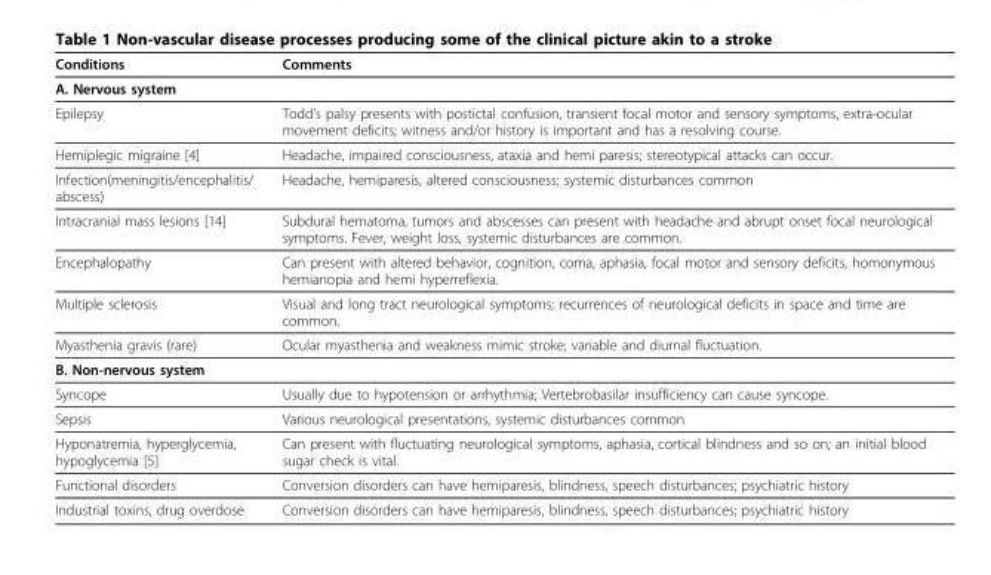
<table><thead><tr><td>Conditions</td><td>Comments</td></tr></thead><tbody><tr><td colspan="2">A. Nervous system</td></tr><tr><td>Epilepsy</td><td>Todd’s palsy presents with postictal confusion, transient focal motor and sensory symptoms, extra-ocular movement deficits; witness and/or history is important and has a resolving course.</td></tr><tr><td>Hemiplegic migraine [4]</td><td>Headache, impaired consciousness, ataxia and hemi paresis; stereotypical attacks can occur.</td></tr><tr><td>Infection(meningitis/encephalitis/ abscess)</td><td>Headache, hemiparesis, altered consciousness; systemic disturbances common</td></tr><tr><td>Intracranial mass lesions [14]</td><td>Subdural hematoma, tumors and abscesses can present with headache and abrupt onset focal neurological symptoms. Fever, weight loss, systemic disturbances are common.</td></tr><tr><td>Encephalopathy</td><td>Can present with altered behavior, cognition, coma, aphasia, focal motor and sensory deficits, homonymous hemianopia and hemi hyperreflexia.</td></tr><tr><td>Multiple sclerosis</td><td>Visual and long tract neurological symptoms; recurrences of neurological deficits in space and time are common.</td></tr><tr><td>Myasthenia gravis (rare)</td><td>Ocular myasthenia and weakness mimic stroke; variable and diurnal fluctuation.</td></tr><tr><td colspan="2">B. Non-nervous system</td></tr><tr><td>Syncope</td><td>Usually due to hypotension or arrhythmia; Vertebrobasilar insufficiency can cause syncope.</td></tr><tr><td>Sepsis</td><td>Various neurological presentations, systemic disturbances common</td></tr><tr><td>Hyponatremia, hyperglycemia, hypoglycemia [5]</td><td>Can present with fluctuating neurological symptoms, aphasia, cortical blindness and so on; an initial blood sugar check is vital.</td></tr><tr><td>Functional disorders</td><td>Conversion disorders can have hemiparesis, blindness, speech disturbances; psychiatric history</td></tr><tr><td>Industrial toxins, drug overdose</td><td>Conversion disorders can have hemiparesis, blindness, speech disturbances; psychiatric history</td></tr></tbody></table>